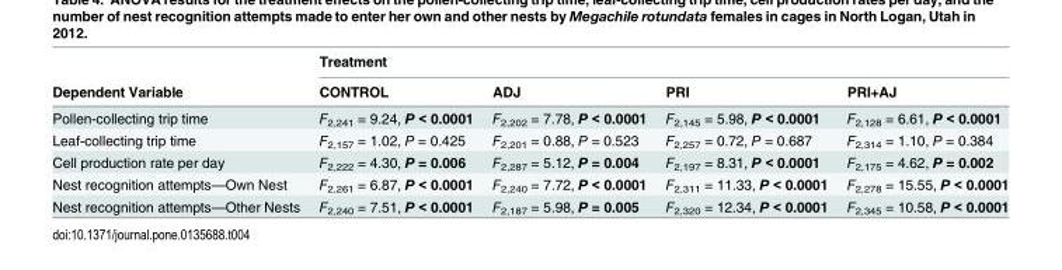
<table><thead><tr><td rowspan="2">Dependent Variable</td><td colspan="4">Treatment</td></tr><tr><td>CONTROL</td><td>ADJ</td><td>PRI</td><td>PRI+AJ</td></tr></thead><tbody><tr><td>Pollen-collecting trip time</td><td>F<sub>2,241</sub> = 9.24, P &lt; 0.0001</td><td>F<sub>2,202</sub> = 7.78, P &lt; 0.0001</td><td>F<sub>2,145</sub> = 5.98, P &lt; 0.0001</td><td>F<sub>2,128</sub> = 6.61, P &lt; 0.0001</td></tr><tr><td>Leaf-collecting trip time</td><td>F<sub>2,157</sub> = 1.02, P = 0.425</td><td>F<sub>2,201</sub> = 0.88, P = 0.523</td><td>F<sub>2,257</sub> = 0.72, P = 0.687</td><td>F<sub>2,314</sub> = 1.10, P = 0.384</td></tr><tr><td>Cell production rate per day</td><td>F<sub>2,222</sub> = 4.30, P = 0.006</td><td>F<sub>2,287</sub> = 5.12, P = 0.004</td><td>F<sub>2,197</sub> = 8.31, P &lt; 0.0001</td><td>F<sub>2,175</sub> = 4.62, P = 0.002</td></tr><tr><td>Nest recognition attempts—Own Nest</td><td>F<sub>2,261</sub> = 6.87, P &lt; 0.0001</td><td>F<sub>2,240</sub> = 7.72, P &lt; 0.0001</td><td>F<sub>2,311</sub> = 11.33, P &lt; 0.0001</td><td>F<sub>2,278</sub> = 15.55, P &lt; 0.0001</td></tr><tr><td>Nest recognition attempts—Other Nests</td><td>F<sub>2,240</sub> = 7.51, P &lt; 0.0001</td><td>F<sub>2,187</sub> = 5.98, P = 0.005</td><td>F<sub>2,320</sub> = 12.34, P &lt; 0.0001</td><td>F<sub>2,345</sub> = 10.58, P &lt; 0.0001</td></tr></tbody></table>